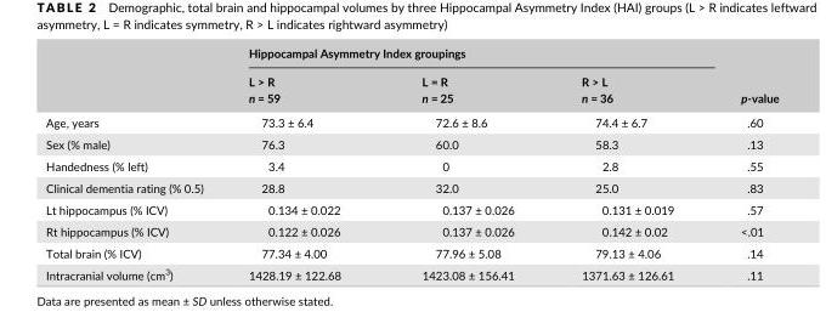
<table><thead><tr><td rowspan="2"></td><td colspan="3">Hippocampal Asymmetry Index groupings</td><td rowspan="2">p- value</td></tr><tr><td>L &gt; R n = 59</td><td>L = R n = 25</td><td>R &gt; L n = 36</td></tr></thead><tbody><tr><td>Age, years</td><td>73.3 ± 6.4</td><td>72.6 ± 8.6</td><td>74.4 ± 6.7</td><td>.60</td></tr><tr><td>Sex (% male)</td><td>76.3</td><td>60.0</td><td>58.3</td><td>.13</td></tr><tr><td>Handedness (% left)</td><td>3.4</td><td>0</td><td>2.8</td><td>.55</td></tr><tr><td>Clinical dementia rating (% 0.5)</td><td>28.8</td><td>32.0</td><td>25.0</td><td>.83</td></tr><tr><td>Lt hippocampus (% ICV)</td><td>0.134 ± 0.022</td><td>0.137 ± 0.026</td><td>0.131 ± 0.019</td><td>.57</td></tr><tr><td>Rt hippocampus (% ICV)</td><td>0.122 ± 0.026</td><td>0.137 ± 0.026</td><td>0.142 ± 0.02</td><td>&lt;.01</td></tr><tr><td>Total brain (% ICV)</td><td>77.34 ± 4.00</td><td>77.96 ± 5.08</td><td>79.13 ± 4.06</td><td>.14</td></tr><tr><td>Intracranial volume (cm<sup>3</sup>)</td><td>1428.19 ± 122.68</td><td>1423.08 ± 156.41</td><td>1371.63 ± 126.61</td><td>.11</td></tr></tbody></table>